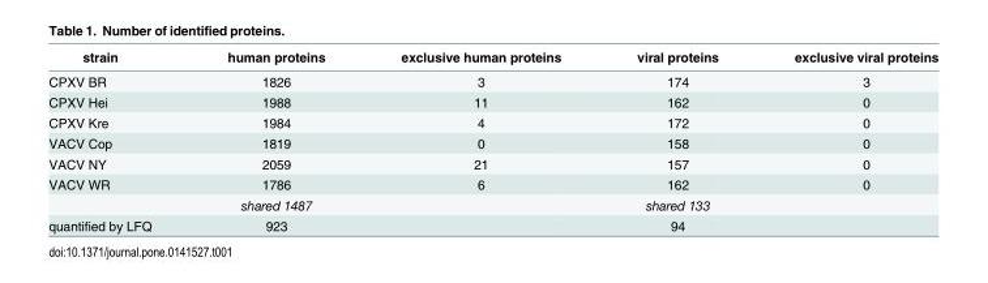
<table><thead><tr><td>strain</td><td>human proteins</td><td>exclusive human proteins</td><td>viral proteins</td><td>exclusive viral proteins</td></tr></thead><tbody><tr><td>CPXV BR</td><td>1826</td><td>3</td><td>174</td><td>3</td></tr><tr><td>CPXV Hei</td><td>1988</td><td>11</td><td>162</td><td>0</td></tr><tr><td>CPXV Kre</td><td>1984</td><td>4</td><td>172</td><td>0</td></tr><tr><td>VACV Cop</td><td>1819</td><td>0</td><td>158</td><td>0</td></tr><tr><td>VACV NY</td><td>2059</td><td>21</td><td>157</td><td>0</td></tr><tr><td rowspan="2">VACV WR</td><td>1786</td><td>6</td><td>162</td><td>0</td></tr><tr><td>shared 1487</td><td></td><td>shared 133</td><td></td></tr><tr><td>quantified by LFQ</td><td>923</td><td></td><td>94</td><td></td></tr></tbody></table>